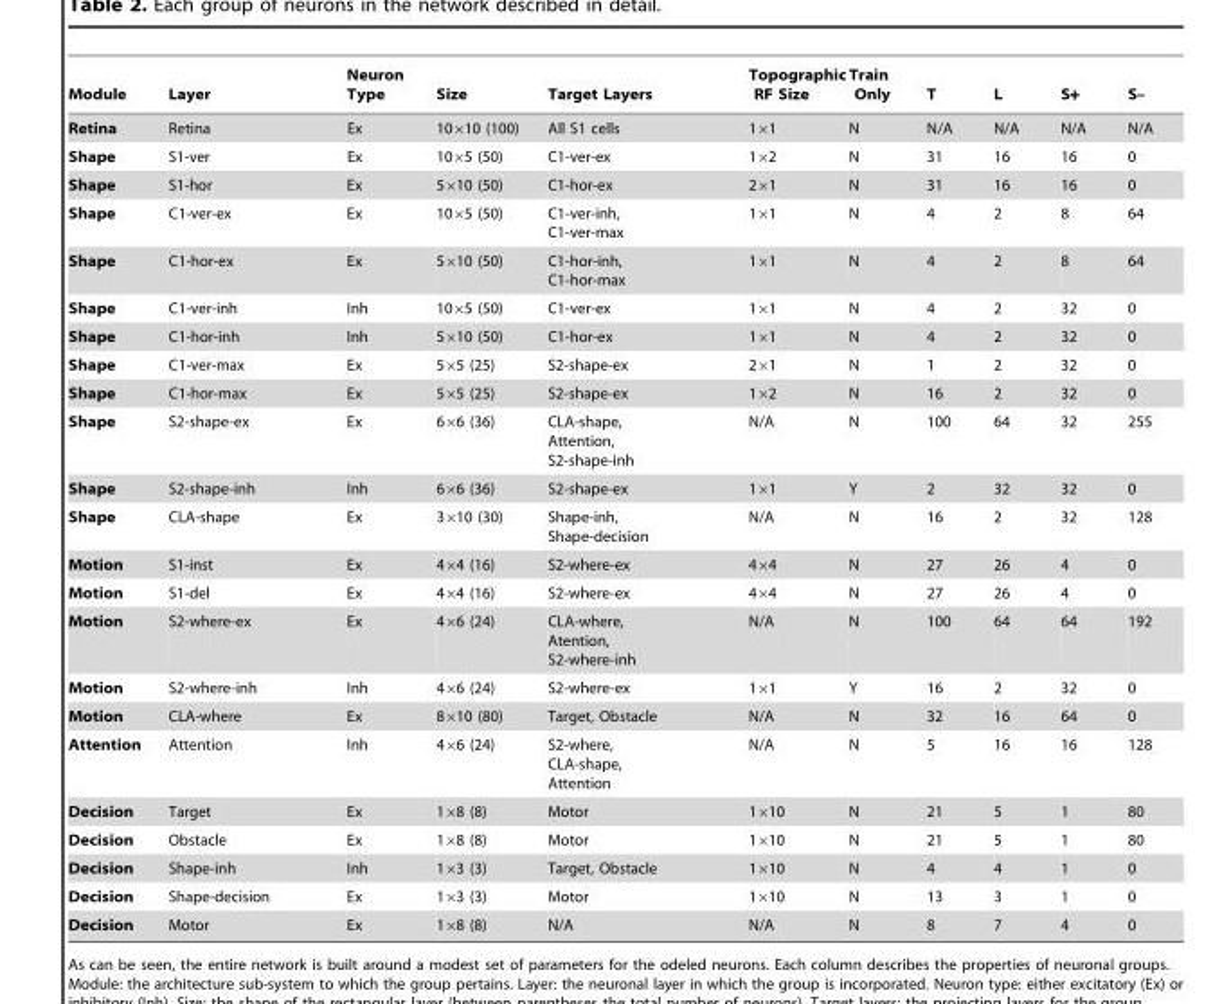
<table><thead><tr><td>Module</td><td>Layer</td><td>Neuron Type</td><td>Size</td><td>Target Layers</td><td>Topographic RF Size</td><td>Train Only</td><td>T</td><td>L</td><td>S+</td><td>S–</td></tr></thead><tbody><tr><td>Retina</td><td>Retina</td><td>Ex</td><td>10×10 (100)</td><td>All S1 cells</td><td>1×1</td><td>N</td><td>N/A</td><td>N/A</td><td>N/A</td><td>N/A</td></tr><tr><td>Shape</td><td>S1-ver</td><td>Ex</td><td>10×5 (50)</td><td>C1-ver-ex</td><td>1×2</td><td>N</td><td>31</td><td>16</td><td>16</td><td>0</td></tr><tr><td>Shape</td><td>S1-hor</td><td>Ex</td><td>5×10 (50)</td><td>C1-hor-ex</td><td>2×1</td><td>N</td><td>31</td><td>16</td><td>16</td><td>0</td></tr><tr><td>Shape</td><td>C1-ver-ex</td><td>Ex</td><td>10×5 (50)</td><td>C1-ver-inh, C1-ver-max</td><td>1×1</td><td>N</td><td>4</td><td>2</td><td>8</td><td>64</td></tr><tr><td>Shape</td><td>C1-hor-ex</td><td>Ex</td><td>5×10 (50)</td><td>C1-hor-inh, C1-hor-max</td><td>1×1</td><td>N</td><td>4</td><td>2</td><td>8</td><td>64</td></tr><tr><td>Shape</td><td>C1-ver-inh</td><td>Inh</td><td>10×5 (50)</td><td>C1-ver-ex</td><td>1×1</td><td>N</td><td>4</td><td>2</td><td>32</td><td>0</td></tr><tr><td>Shape</td><td>C1-hor-inh</td><td>Inh</td><td>5×10 (50)</td><td>C1-hor-ex</td><td>1×1</td><td>N</td><td>4</td><td>2</td><td>32</td><td>0</td></tr><tr><td>Shape</td><td>C1-ver-max</td><td>Ex</td><td>5×5 (25)</td><td>S2-shape-ex</td><td>2×1</td><td>N</td><td>1</td><td>2</td><td>32</td><td>0</td></tr><tr><td>Shape</td><td>C1-hor-max</td><td>Ex</td><td>5×5 (25)</td><td>S2-shape-ex</td><td>1×2</td><td>N</td><td>16</td><td>2</td><td>32</td><td>0</td></tr><tr><td>Shape</td><td>S2-shape-ex</td><td>Ex</td><td>6×6 (36)</td><td>CLA-shape, Attention, S2-shape-inh</td><td>N/A</td><td>N</td><td>100</td><td>64</td><td>32</td><td>255</td></tr><tr><td>Shape</td><td>S2-shape-inh</td><td>Inh</td><td>6×6 (36)</td><td>S2-shape-ex</td><td>1×1</td><td>Y</td><td>2</td><td>32</td><td>32</td><td>0</td></tr><tr><td>Shape</td><td>CLA-shape</td><td>Ex</td><td>3×10 (30)</td><td>Shape-inh, Shape-decision</td><td>N/A</td><td>N</td><td>16</td><td>2</td><td>32</td><td>128</td></tr><tr><td>Motion</td><td>S1-inst</td><td>Ex</td><td>4×4 (16)</td><td>S2-where-ex</td><td>4×4</td><td>N</td><td>27</td><td>26</td><td>4</td><td>0</td></tr><tr><td>Motion</td><td>S1-del</td><td>Ex</td><td>4×4 (16)</td><td>S2-where-ex</td><td>4×4</td><td>N</td><td>27</td><td>26</td><td>4</td><td>0</td></tr><tr><td>Motion</td><td>S2-where-ex</td><td>Ex</td><td>4×6 (24)</td><td>CLA-where, Atention, S2-where-inh</td><td>N/A</td><td>N</td><td>100</td><td>64</td><td>64</td><td>192</td></tr><tr><td>Motion</td><td>S2-where-inh</td><td>Inh</td><td>4×6 (24)</td><td>S2-where-ex</td><td>1×1</td><td>Y</td><td>16</td><td>2</td><td>32</td><td>0</td></tr><tr><td>Motion</td><td>CLA-where</td><td>Ex</td><td>8×10 (80)</td><td>Target, Obstacle</td><td>N/A</td><td>N</td><td>32</td><td>16</td><td>64</td><td>0</td></tr><tr><td>Attention</td><td>Attention</td><td>Inh</td><td>4×6 (24)</td><td>S2-where, CLA-shape, Attention</td><td>N/A</td><td>N</td><td>5</td><td>16</td><td>16</td><td>128</td></tr><tr><td>Decision</td><td>Target</td><td>Ex</td><td>1×8 (8)</td><td>Motor</td><td>1×10</td><td>N</td><td>21</td><td>5</td><td>1</td><td>80</td></tr><tr><td>Decision</td><td>Obstacle</td><td>Ex</td><td>1×8 (8)</td><td>Motor</td><td>1×10</td><td>N</td><td>21</td><td>5</td><td>1</td><td>80</td></tr><tr><td>Decision</td><td>Shape-inh</td><td>Inh</td><td>1×3 (3)</td><td>Target, Obstacle</td><td>1×10</td><td>N</td><td>4</td><td>4</td><td>1</td><td>0</td></tr><tr><td>Decision</td><td>Shape-decision</td><td>Ex</td><td>1×3 (3)</td><td>Motor</td><td>1×10</td><td>N</td><td>13</td><td>3</td><td>1</td><td>0</td></tr><tr><td>Decision</td><td>Motor</td><td>Ex</td><td>1×8 (8)</td><td>N/A</td><td>N/A</td><td>N</td><td>8</td><td>7</td><td>4</td><td>0</td></tr></tbody></table>